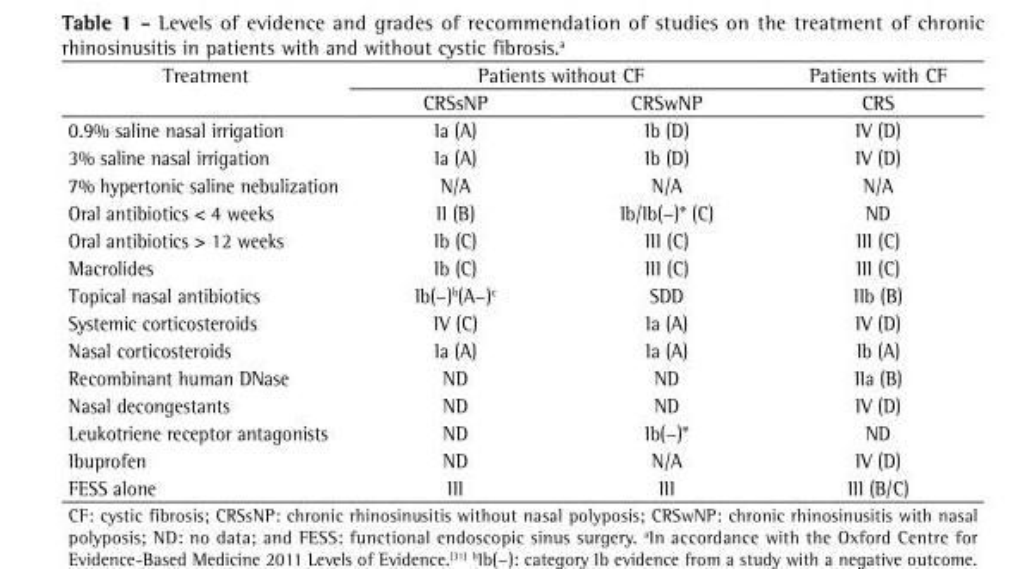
<table><thead><tr><td rowspan="2">Treatment</td><td colspan="2">Patients without CF</td><td rowspan="2">Patients with CF CRS</td></tr><tr><td>CRSsNP</td><td>CRSwNP</td></tr></thead><tbody><tr><td>0.9% saline nasal irrigation</td><td>Ia (A)</td><td>Ib (D)</td><td>IV (D)</td></tr><tr><td>3% saline nasal irrigation</td><td>Ia (A)</td><td>Ib (D)</td><td>IV (D)</td></tr><tr><td>7% hypertonic saline nebulization</td><td>N/A</td><td>N/A</td><td>N/A</td></tr><tr><td>Oral antibiotics &lt; 4 weeks</td><td>II (B)</td><td>Ib/Ib(−)* (C)</td><td>ND</td></tr><tr><td>Oral antibiotics &gt; 12 weeks</td><td>Ib (C)</td><td>III (C)</td><td>III (C)</td></tr><tr><td>Macrolides</td><td>Ib (C)</td><td>III (C)</td><td>III (C)</td></tr><tr><td>Topical nasal antibiotics</td><td>Ib(−)<sup>b</sup>(A−)<sup>c</sup></td><td>SDD</td><td>IIb (B)</td></tr><tr><td>Systemic corticosteroids</td><td>IV (C)</td><td>Ia (A)</td><td>IV (D)</td></tr><tr><td>Nasal corticosteroids</td><td>Ia (A)</td><td>Ia (A)</td><td>Ib (A)</td></tr><tr><td>Recombinant human DNase</td><td>ND</td><td>ND</td><td>IIa (B)</td></tr><tr><td>Nasal decongestants</td><td>ND</td><td>ND</td><td>IV (D)</td></tr><tr><td>Leukotriene receptor antagonists</td><td>ND</td><td>Ib(−)*</td><td>ND</td></tr><tr><td>Ibuprofen</td><td>ND</td><td>N/A</td><td>IV (D)</td></tr><tr><td>FESS alone</td><td>III</td><td>III</td><td>III (B/C)</td></tr></tbody></table>